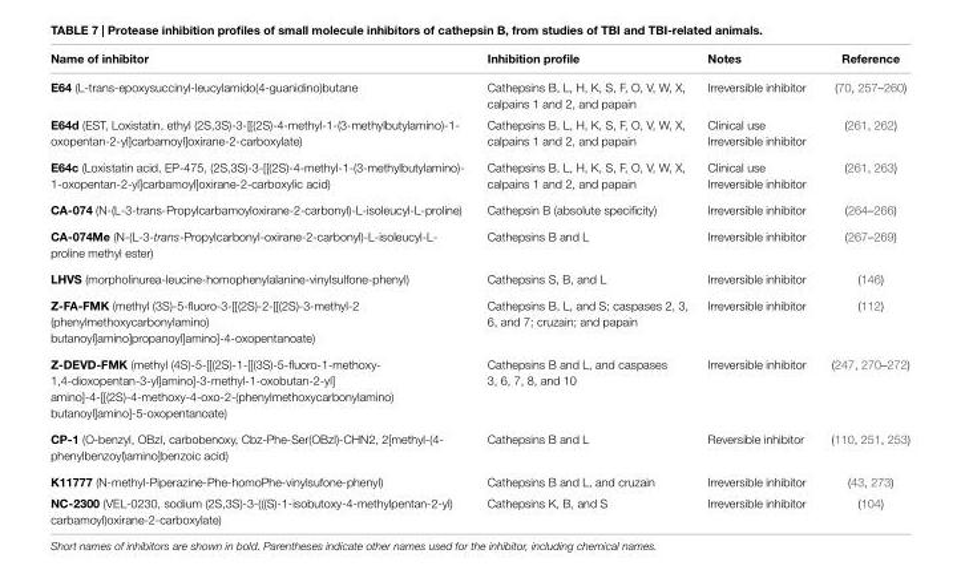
<table><thead><tr><td>Name of inhibitor</td><td>inhibition profile</td><td>Notes</td><td>Reference</td></tr></thead><tbody><tr><td>e64 (L-trans-epoxysuccinyl-leucylamido(4-guanidino)butane</td><td>Cathepsins B, L, H, K, S, F, O, V, W, X, calpains 1 and 2, and papain</td><td>Irreversible inhibitor</td><td>(70, 257–260)</td></tr><tr><td>e64d (EST, Loxistatin, ethyl (2S,3S)-3-[[(2S)-4-methyl-1-(3-methylbutylamino)-1- oxopentan-2-yl]carbamoyl]oxirane-2-carboxylate)</td><td>Cathepsins B, L, H, K, S, F, O, V, W, X, calpains 1 and 2, and papain</td><td>Clinical use Irreversible inhibitor</td><td>(261, 262)</td></tr><tr><td>e64c (Loxistatin acid, EP-475, (2S,3S)-3-[[(2S)-4-methyl-1-(3-methylbutylamino)- 1-oxopentan-2-yl]carbamoyl]oxirane-2-carboxylic acid)</td><td>Cathepsins B, L, H, K, S, F, O, V, W, X, calpains 1 and 2, and papain</td><td>Clinical use Irreversible inhibitor</td><td>(261, 263)</td></tr><tr><td>CA-074 (N-(L-3-trans-Propylcarbamoyloxirane-2-carbonyl)-L-isoleucyl-L-proline)</td><td>Cathepsin B (absolute specificity)</td><td>Irreversible inhibitor</td><td>(264–266)</td></tr><tr><td>CA-074Me (N-(L-3-trans-Propylcarbonyl-oxirane-2-carbonyl)-L-isoleucyl-L- proline methyl ester)</td><td>Cathepsins B and L</td><td>Irreversible inhibitor</td><td>(267–269)</td></tr><tr><td>LHvS (morpholinurea-leucine-homophenylalanine-vinylsulfone-phenyl)</td><td>Cathepsins S, B, and L</td><td>Irreversible inhibitor</td><td>(146)</td></tr><tr><td>Z-FA-FMK (methyl (3S)-5-fluoro-3-[[(2S)-2-[[(2S)-3-methyl-2 (phenylmethoxycarbonylamino) butanoyl]amino]propanoyl]amino]-4-oxopentanoate)</td><td>Cathepsins B, L, and S; caspases 2, 3, 6, and 7; cruzain; and papain</td><td>Irreversible inhibitor</td><td>(112)</td></tr><tr><td>Z-DevD-FMK (methyl (4S)-5-[[(2S)-1-[[(3S)-5-fluoro-1-methoxy- 1,4-dioxopentan-3-yl]amino]-3-methyl-1-oxobutan-2-yl] amino]-4-[[(2S)-4-methoxy-4-oxo-2-(phenylmethoxycarbonylamino) butanoyl]amino]-5-oxopentanoate)</td><td>Cathepsins B and L, and caspases 3, 6, 7, 8, and 10</td><td>Irreversible inhibitor</td><td>(247, 270–272)</td></tr><tr><td>CP-1 (O-benzyl, OBzl, carbobenoxy, Cbz-Phe-Ser(OBzl)-CHN2, 2[methyl-(4- phenylbenzoyl)amino]benzoic acid)</td><td>Cathepsins B and L</td><td>Reversible inhibitor</td><td>(110, 251, 253)</td></tr><tr><td>K11777 (N-methyl-Piperazine-Phe-homoPhe-vinylsufone-phenyl)</td><td>Cathepsins B and L, and cruzain</td><td>Irreversible inhibitor</td><td>(43, 273)</td></tr><tr><td>NC-2300 (VEL-0230, sodium (2S,3S)-3-(((S)-1-isobutoxy-4-methylpentan-2-yl) carbamoyl)oxirane-2-carboxylate)</td><td>Cathepsins K, B, and S</td><td>Irreversible inhibitor</td><td>(104)</td></tr></tbody></table>